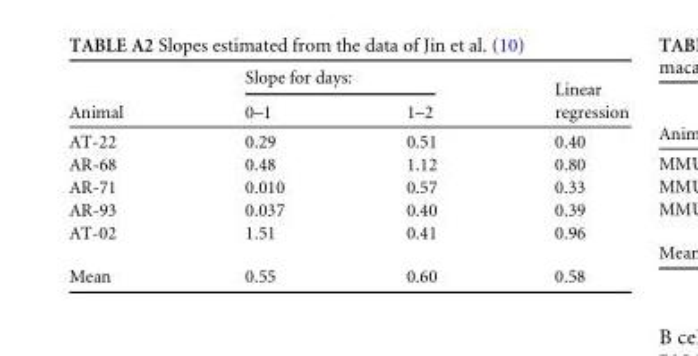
<table><thead><tr><td rowspan="2">Animal</td><td colspan="2">Slope for days:</td><td rowspan="2">Linear regression</td></tr><tr><td>0–1</td><td>1–2</td></tr></thead><tbody><tr><td>AT-22</td><td>0.29</td><td>0.51</td><td>0.40</td></tr><tr><td>AR-68</td><td>0.48</td><td>1.12</td><td>0.80</td></tr><tr><td>AR-71</td><td>0.010</td><td>0.57</td><td>0.33</td></tr><tr><td>AR-93</td><td>0.037</td><td>0.40</td><td>0.39</td></tr><tr><td>AT-02</td><td>1.51</td><td>0.41</td><td>0.96</td></tr><tr><td>Mean</td><td>0.55</td><td>0.60</td><td>0.58</td></tr></tbody></table>